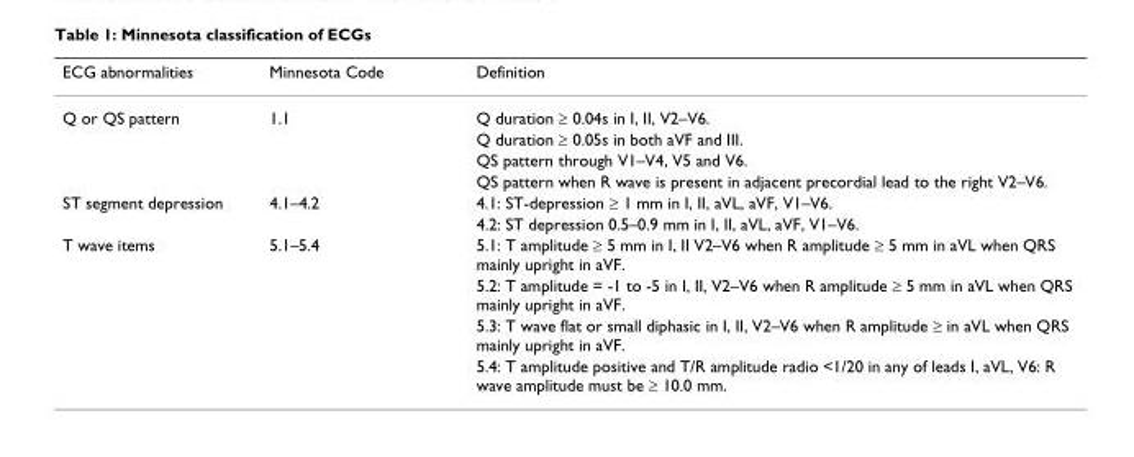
<table><thead><tr><td>ECG abnormalities</td><td>Minnesota Code</td><td>Definition</td></tr></thead><tbody><tr><td rowspan="4">Q or QS pattern</td><td>1.1</td><td>Q duration ≥ 0.04s in I, II, V2–V6.</td></tr><tr><td></td><td>Q duration ≥ 0.05s in both aVF and III.</td></tr><tr><td></td><td>QS pattern through V1–V4, V5 and V6.</td></tr><tr><td></td><td>QS pattern when R wave is present in adjacent precordial lead to the right V2–V6.</td></tr><tr><td rowspan="2">ST segment depression</td><td>4.1–4.2</td><td>4.1: ST-depression ≥ 1 mm in I, II, aVL, aVF, V1–V6.</td></tr><tr><td></td><td>4.2: ST depression 0.5–0.9 mm in I, II, aVL, aVF, V1–V6.</td></tr><tr><td rowspan="4">T wave items</td><td>5.1–5.4</td><td>5.1: T amplitude ≥ 5 mm in I, II V2–V6 when R amplitude ≥ 5 mm in aVL when QRS mainly upright in aVF.</td></tr><tr><td></td><td>5.2: T amplitude = -1 to -5 in I, II, V2–V6 when R amplitude ≥ 5 mm in aVL when QRS mainly upright in aVF.</td></tr><tr><td></td><td>5.3: T wave flat or small diphasic in I, II, V2–V6 when R amplitude ≥ in aVL when QRS mainly upright in aVF.</td></tr><tr><td></td><td>5.4: T amplitude positive and T/R amplitude radio &lt;1/20 in any of leads I, aVL, V6: R wave amplitude must be ≥ 10.0 mm.</td></tr></tbody></table>